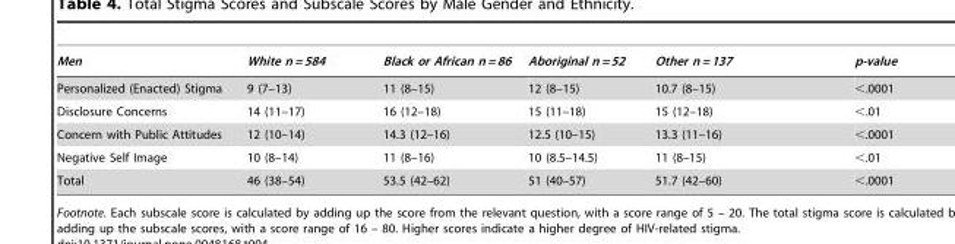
<table><thead><tr><td>Men</td><td>White n = 584</td><td>Black or African n = 86</td><td>Aboriginal n = 52</td><td>Other n = 137</td><td>p-value</td></tr></thead><tbody><tr><td>Personalized (Enacted) Stigma</td><td>9 (7–13)</td><td>11 (8–15)</td><td>12 (8–15)</td><td>10.7 (8–15)</td><td>&lt;.0001</td></tr><tr><td>Disclosure Concerns</td><td>14 (11–17)</td><td>16 (12–18)</td><td>15 (11–18)</td><td>15 (12–18)</td><td>&lt;.01</td></tr><tr><td>Concern with Public Attitudes</td><td>12 (10–14)</td><td>14.3 (12–16)</td><td>12.5 (10–15)</td><td>13.3 (11–16)</td><td>&lt;.0001</td></tr><tr><td>Negative Self Image</td><td>10 (8–14)</td><td>11 (8–16)</td><td>10 (8.5–14.5)</td><td>11 (8–15)</td><td>&lt;.01</td></tr><tr><td>Total</td><td>46 (38–54)</td><td>53.5 (42–62)</td><td>51 (40–57)</td><td>51.7 (42–60)</td><td>&lt;.0001</td></tr></tbody></table>